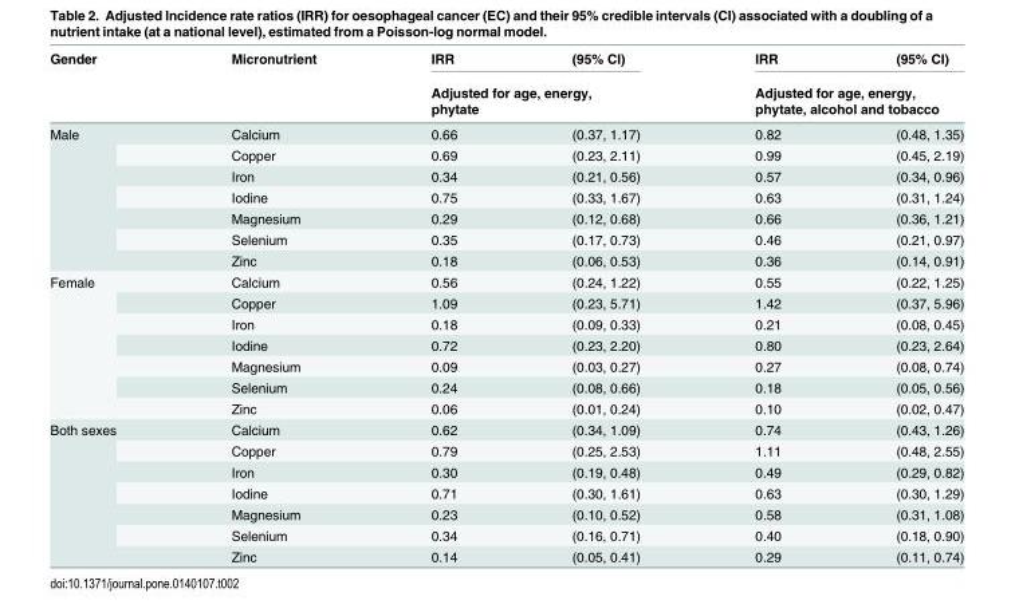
<table><thead><tr><td rowspan="2">Gender</td><td rowspan="2">Micronutrient</td><td>IRR</td><td>(95% CI)</td><td>IRR</td><td>(95% CI)</td></tr><tr><td colspan="2">Adjusted for age, energy, phytate</td><td colspan="2">Adjusted for age, energy, phytate, alcohol and tobacco</td></tr></thead><tbody><tr><td rowspan="7">Male</td><td>Calcium</td><td>0.66</td><td>(0.37, 1.17)</td><td>0.82</td><td>(0.48, 1.35)</td></tr><tr><td>Copper</td><td>0.69</td><td>(0.23, 2.11)</td><td>0.99</td><td>(0.45, 2.19)</td></tr><tr><td>Iron</td><td>0.34</td><td>(0.21, 0.56)</td><td>0.57</td><td>(0.34, 0.96)</td></tr><tr><td>Iodine</td><td>0.75</td><td>(0.33, 1.67)</td><td>0.63</td><td>(0.31, 1.24)</td></tr><tr><td>Magnesium</td><td>0.29</td><td>(0.12, 0.68)</td><td>0.66</td><td>(0.36, 1.21)</td></tr><tr><td>Selenium</td><td>0.35</td><td>(0.17, 0.73)</td><td>0.46</td><td>(0.21, 0.97)</td></tr><tr><td>Zinc</td><td>0.18</td><td>(0.06, 0.53)</td><td>0.36</td><td>(0.14, 0.91)</td></tr><tr><td rowspan="7">Female</td><td>Calcium</td><td>0.56</td><td>(0.24, 1.22)</td><td>0.55</td><td>(0.22, 1.25)</td></tr><tr><td>Copper</td><td>1.09</td><td>(0.23, 5.71)</td><td>1.42</td><td>(0.37, 5.96)</td></tr><tr><td>Iron</td><td>0.18</td><td>(0.09, 0.33)</td><td>0.21</td><td>(0.08, 0.45)</td></tr><tr><td>Iodine</td><td>0.72</td><td>(0.23, 2.20)</td><td>0.80</td><td>(0.23, 2.64)</td></tr><tr><td>Magnesium</td><td>0.09</td><td>(0.03, 0.27)</td><td>0.27</td><td>(0.08, 0.74)</td></tr><tr><td>Selenium</td><td>0.24</td><td>(0.08, 0.66)</td><td>0.18</td><td>(0.05, 0.56)</td></tr><tr><td>Zinc</td><td>0.06</td><td>(0.01, 0.24)</td><td>0.10</td><td>(0.02, 0.47)</td></tr><tr><td rowspan="7">Both sexes</td><td>Calcium</td><td>0.62</td><td>(0.34, 1.09)</td><td>0.74</td><td>(0.43, 1.26)</td></tr><tr><td>Copper</td><td>0.79</td><td>(0.25, 2.53)</td><td>1.11</td><td>(0.48, 2.55)</td></tr><tr><td>Iron</td><td>0.30</td><td>(0.19, 0.48)</td><td>0.49</td><td>(0.29, 0.82)</td></tr><tr><td>Iodine</td><td>0.71</td><td>(0.30, 1.61)</td><td>0.63</td><td>(0.30, 1.29)</td></tr><tr><td>Magnesium</td><td>0.23</td><td>(0.10, 0.52)</td><td>0.58</td><td>(0.31, 1.08)</td></tr><tr><td>Selenium</td><td>0.34</td><td>(0.16, 0.71)</td><td>0.40</td><td>(0.18, 0.90)</td></tr><tr><td>Zinc</td><td>0.14</td><td>(0.05, 0.41)</td><td>0.29</td><td>(0.11, 0.74)</td></tr></tbody></table>